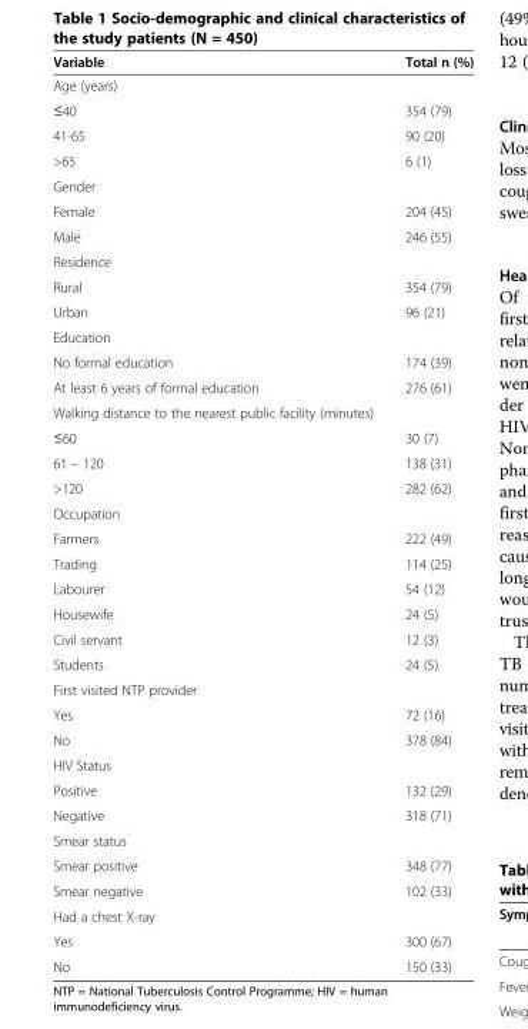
<table><thead><tr><td>Variable</td><td>Total n (%)</td></tr></thead><tbody><tr><td colspan="2">Age (years)</td></tr><tr><td>≤40</td><td>354 (79)</td></tr><tr><td>41-65</td><td>90 (20)</td></tr><tr><td>&gt;65</td><td>6 (1)</td></tr><tr><td colspan="2">Gender</td></tr><tr><td>Female</td><td>204 (45)</td></tr><tr><td>Male</td><td>246 (55)</td></tr><tr><td colspan="2">Residence</td></tr><tr><td>Rural</td><td>354 (79)</td></tr><tr><td>Urban</td><td>96 (21)</td></tr><tr><td colspan="2">Education</td></tr><tr><td>No formal education</td><td>174 (39)</td></tr><tr><td>At least 6 years of formal education</td><td>276 (61)</td></tr><tr><td colspan="2">Walking distance to the nearest public facility (minutes)</td></tr><tr><td>≤60</td><td>30 (7)</td></tr><tr><td>61 – 120</td><td>138 (31)</td></tr><tr><td>&gt;120</td><td>282 (62)</td></tr><tr><td colspan="2">Occupation</td></tr><tr><td>Farmers</td><td>222 (49)</td></tr><tr><td>Trading</td><td>114 (25)</td></tr><tr><td>Labourer</td><td>54 (12)</td></tr><tr><td>Housewife</td><td>24 (5)</td></tr><tr><td>Civil servant</td><td>12 (3)</td></tr><tr><td>Students</td><td>24 (5)</td></tr><tr><td colspan="2">First visited NTP provider</td></tr><tr><td>Yes</td><td>72 (16)</td></tr><tr><td>No</td><td>378 (84)</td></tr><tr><td colspan="2">HIV Status</td></tr><tr><td>Positive</td><td>132 (29)</td></tr><tr><td>Negative</td><td>318 (71)</td></tr><tr><td colspan="2">Smear status</td></tr><tr><td>Smear positive</td><td>348 (77)</td></tr><tr><td>Smear negative</td><td>102 (33)</td></tr><tr><td colspan="2">Had a chest X-ray</td></tr><tr><td>Yes</td><td>300 (67)</td></tr><tr><td>No</td><td>150 (33)</td></tr></tbody></table>